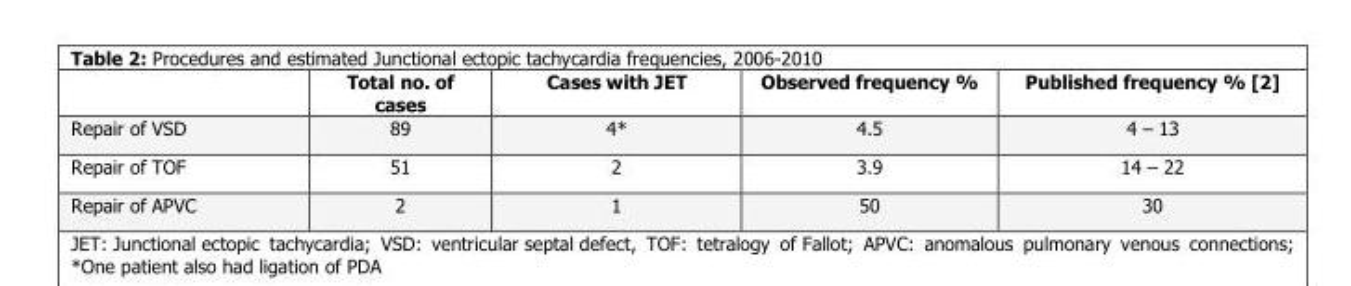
<table><thead><tr><td></td><td>Total no. of cases</td><td>Cases with JET</td><td>Observed frequency %</td><td>Published frequency % [2]</td></tr></thead><tbody><tr><td>Repair of VSD</td><td>89</td><td>4*</td><td>4.5</td><td>4 – 13</td></tr><tr><td>Repair of TOF</td><td>51</td><td>2</td><td>3.9</td><td>14 – 22</td></tr><tr><td>Repair of APVC</td><td>2</td><td>1</td><td>50</td><td>30</td></tr></tbody></table>